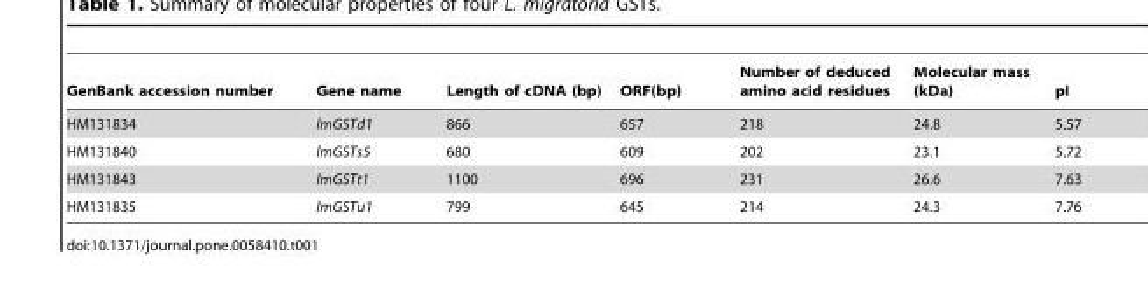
<table><thead><tr><td>GenBank accession number</td><td>Gene name</td><td>Length of cDNA (bp)</td><td>ORF(bp)</td><td>Number of deduced amino acid residues</td><td>Molecular mass (kDa)</td><td>pI</td></tr></thead><tbody><tr><td>HM131834</td><td>lmGSTd1</td><td>866</td><td>657</td><td>218</td><td>24.8</td><td>5.57</td></tr><tr><td>HM131840</td><td>lmGSTs5</td><td>680</td><td>609</td><td>202</td><td>23.1</td><td>5.72</td></tr><tr><td>HM131843</td><td>lmGSTt1</td><td>1100</td><td>696</td><td>231</td><td>26.6</td><td>7.63</td></tr><tr><td>HM131835</td><td>lmGSTu1</td><td>799</td><td>645</td><td>214</td><td>24.3</td><td>7.76</td></tr></tbody></table>